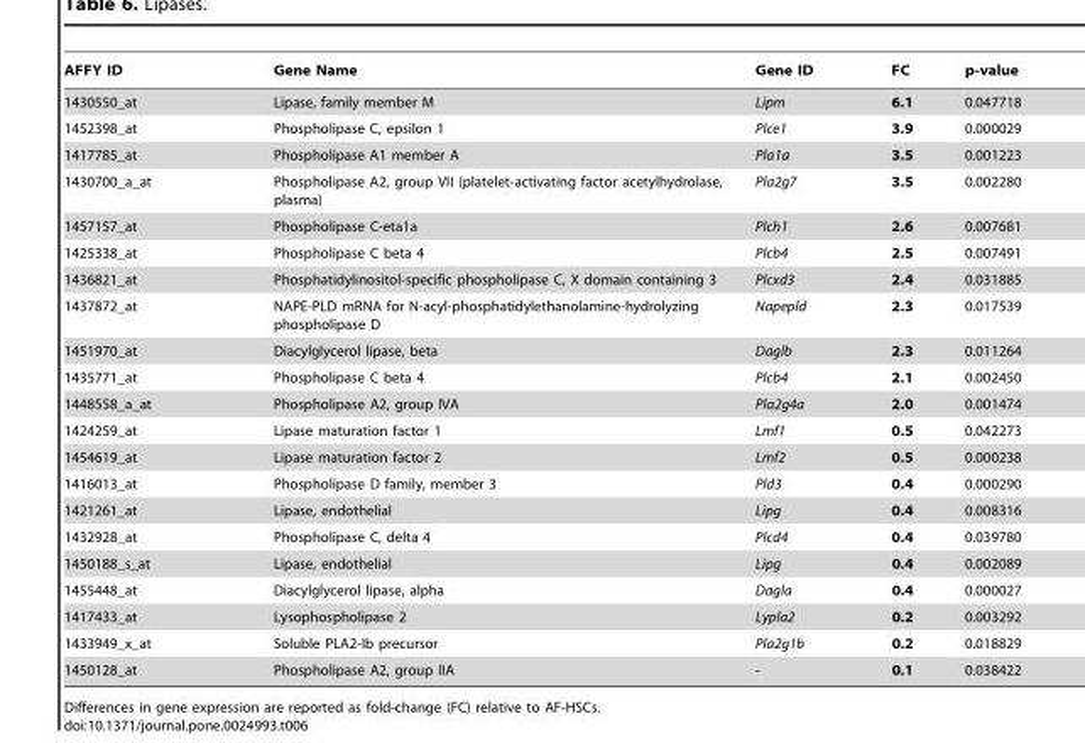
<table><thead><tr><td>AFFY ID</td><td>Gene Name</td><td>Gene ID</td><td>FC</td><td>p-value</td></tr></thead><tbody><tr><td>1430550_at</td><td>Lipase, family member M</td><td>Lipm</td><td>6.1</td><td>0.047718</td></tr><tr><td>1452398_at</td><td>Phospholipase C, epsilon 1</td><td>Plce1</td><td>3.9</td><td>0.000029</td></tr><tr><td>1417785_at</td><td>Phospholipase A1 member A</td><td>Pla1a</td><td>3.5</td><td>0.001223</td></tr><tr><td>1430700_a_at</td><td>Phospholipase A2, group VII (platelet-activating factor acetylhydrolase, plasma)</td><td>Pla2g7</td><td>3.5</td><td>0.002280</td></tr><tr><td>1457157_at</td><td>Phospholipase C-eta1a</td><td>Plch1</td><td>2.6</td><td>0.007681</td></tr><tr><td>1425338_at</td><td>Phospholipase C beta 4</td><td>Plcb4</td><td>2.5</td><td>0.007491</td></tr><tr><td>1436821_at</td><td>Phosphatidylinositol-specific phospholipase C, X domain containing 3</td><td>Plcxd3</td><td>2.4</td><td>0.031885</td></tr><tr><td>1437872_at</td><td>NAPE-PLD mRNA for N-acyl-phosphatidylethanolamine-hydrolyzing phospholipase D</td><td>Napepld</td><td>2.3</td><td>0.017539</td></tr><tr><td>1451970_at</td><td>Diacylglycerol lipase, beta</td><td>Daglb</td><td>2.3</td><td>0.011264</td></tr><tr><td>1435771_at</td><td>Phospholipase C beta 4</td><td>Plcb4</td><td>2.1</td><td>0.002450</td></tr><tr><td>1448558_a_at</td><td>Phospholipase A2, group IVA</td><td>Pla2g4a</td><td>2.0</td><td>0.001474</td></tr><tr><td>1424259_at</td><td>Lipase maturation factor 1</td><td>Lmf1</td><td>0.5</td><td>0.042273</td></tr><tr><td>1454619_at</td><td>Lipase maturation factor 2</td><td>Lmf2</td><td>0.5</td><td>0.000238</td></tr><tr><td>1416013_at</td><td>Phospholipase D family, member 3</td><td>Pld3</td><td>0.4</td><td>0.000290</td></tr><tr><td>1421261_at</td><td>Lipase, endothelial</td><td>Lipg</td><td>0.4</td><td>0.008316</td></tr><tr><td>1432928_at</td><td>Phospholipase C, delta 4</td><td>Plcd4</td><td>0.4</td><td>0.039780</td></tr><tr><td>1450188_s_at</td><td>Lipase, endothelial</td><td>Lipg</td><td>0.4</td><td>0.002089</td></tr><tr><td>1455448_at</td><td>Diacylglycerol lipase, alpha</td><td>Dagla</td><td>0.4</td><td>0.000027</td></tr><tr><td>1417433_at</td><td>Lysophospholipase 2</td><td>Lypla2</td><td>0.2</td><td>0.003292</td></tr><tr><td>1433949_x_at</td><td>Soluble PLA2-Ib precursor</td><td>Pla2g1b</td><td>0.2</td><td>0.018829</td></tr><tr><td>1450128_at</td><td>Phospholipase A2, group IIA</td><td>-</td><td>0.1</td><td>0.038422</td></tr></tbody></table>